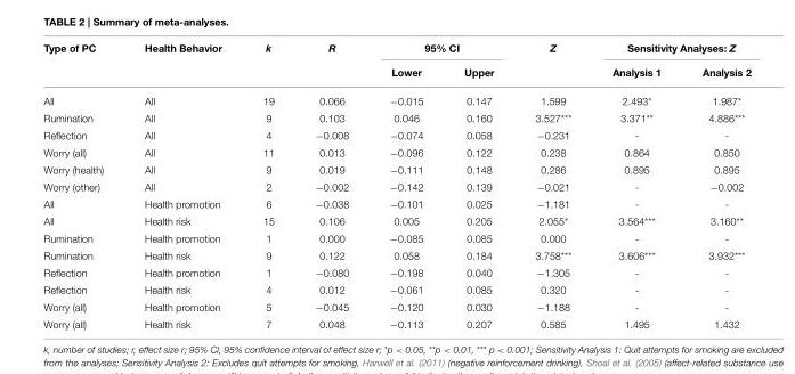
<table><thead><tr><td rowspan="2">Type of PC</td><td rowspan="2">Health Behavior</td><td rowspan="2">k</td><td rowspan="2">R</td><td colspan="2">95% CI</td><td rowspan="2">Z</td><td colspan="2">Sensitivity Analyses: Z</td></tr><tr><td>Lower</td><td>Upper</td><td>Analysis 1</td><td>Analysis 2</td></tr></thead><tbody><tr><td>All</td><td>All</td><td>19</td><td>0.066</td><td>−0.015</td><td>0.147</td><td>1.599</td><td>2.493*</td><td>1.987*</td></tr><tr><td>Rumination</td><td>All</td><td>9</td><td>0.103</td><td>0.046</td><td>0.160</td><td>3.527***</td><td>3.371**</td><td>4.886***</td></tr><tr><td>Reflection</td><td>All</td><td>4</td><td>−0.008</td><td>−0.074</td><td>0.058</td><td>−0.231</td><td>-</td><td>-</td></tr><tr><td>Worry (all)</td><td>All</td><td>11</td><td>0.013</td><td>−0.096</td><td>0.122</td><td>0.238</td><td>0.864</td><td>0.850</td></tr><tr><td>Worry (health)</td><td>All</td><td>9</td><td>0.019</td><td>−0.111</td><td>0.148</td><td>0.286</td><td>0.895</td><td>0.895</td></tr><tr><td>Worry (other)</td><td>All</td><td>2</td><td>−0.002</td><td>−0.142</td><td>0.139</td><td>−0.021</td><td>-</td><td>−0.002</td></tr><tr><td>All</td><td>Health promotion</td><td>6</td><td>−0.038</td><td>−0.101</td><td>0.025</td><td>−1.181</td><td>-</td><td>-</td></tr><tr><td>All</td><td>Health risk</td><td>15</td><td>0.106</td><td>0.005</td><td>0.205</td><td>2.055*</td><td>3.564***</td><td>3.160**</td></tr><tr><td>Rumination</td><td>Health promotion</td><td>1</td><td>0.000</td><td>−0.085</td><td>0.085</td><td>0.000</td><td>-</td><td>-</td></tr><tr><td>Rumination</td><td>Health risk</td><td>9</td><td>0.122</td><td>0.058</td><td>0.184</td><td>3.758***</td><td>3.606***</td><td>3.932***</td></tr><tr><td>Reflection</td><td>Health promotion</td><td>1</td><td>−0.080</td><td>−0.198</td><td>0.040</td><td>−1.305</td><td>-</td><td>-</td></tr><tr><td>Reflection</td><td>Health risk</td><td>4</td><td>0.012</td><td>−0.061</td><td>0.085</td><td>0.320</td><td>-</td><td>-</td></tr><tr><td>Worry (all)</td><td>Health promotion</td><td>5</td><td>−0.045</td><td>−0.120</td><td>0.030</td><td>−1.188</td><td>-</td><td>-</td></tr><tr><td>Worry (all)</td><td>Health risk</td><td>7</td><td>0.048</td><td>−0.113</td><td>0.207</td><td>0.585</td><td>1.495</td><td>1.432</td></tr></tbody></table>